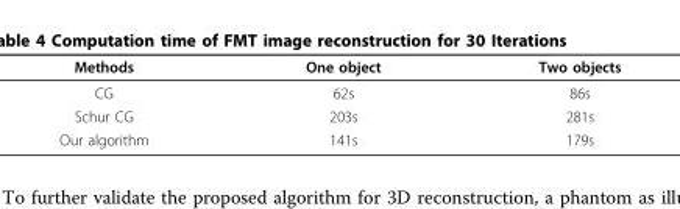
<table><thead><tr><td>Methods</td><td>One object</td><td>Two objects</td></tr></thead><tbody><tr><td>CG</td><td>62s</td><td>86s</td></tr><tr><td>Schur CG</td><td>203s</td><td>281s</td></tr><tr><td>Our algorithm</td><td>141s</td><td>179s</td></tr></tbody></table>